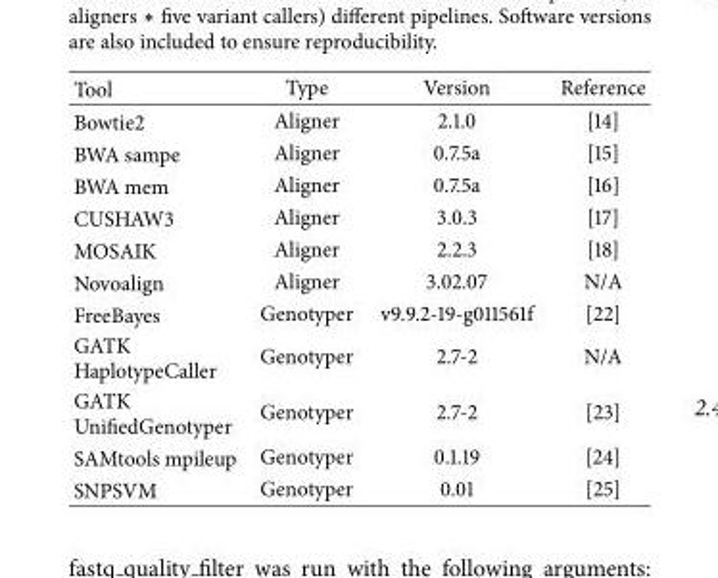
<table><thead><tr><td>Tool</td><td>Type</td><td>Version</td><td>Reference</td></tr></thead><tbody><tr><td>Bowtie2</td><td>Aligner</td><td>2.1.0</td><td>[14]</td></tr><tr><td>BWA sampe</td><td>Aligner</td><td>0.7.5a</td><td>[15]</td></tr><tr><td>BWA mem</td><td>Aligner</td><td>0.7.5a</td><td>[16]</td></tr><tr><td>CUSHAW3</td><td>Aligner</td><td>3.0.3</td><td>[17]</td></tr><tr><td>MOSAIK</td><td>Aligner</td><td>2.2.3</td><td>[18]</td></tr><tr><td>Novoalign</td><td>Aligner</td><td>3.02.07</td><td>N/A</td></tr><tr><td>FreeBayes</td><td>Genotyper</td><td>v9.9.2-19-g011561f</td><td>[22]</td></tr><tr><td>GATK HaplotypeCaller</td><td>Genotyper</td><td>2.7-2</td><td>N/A</td></tr><tr><td>GATK UnifiedGenotyper</td><td>Genotyper</td><td>2.7-2</td><td>[23]</td></tr><tr><td>SAMtools mpileup</td><td>Genotyper</td><td>0.1.19</td><td>[24]</td></tr><tr><td>SNPSVM</td><td>Genotyper</td><td>0.01</td><td>[25]</td></tr></tbody></table>